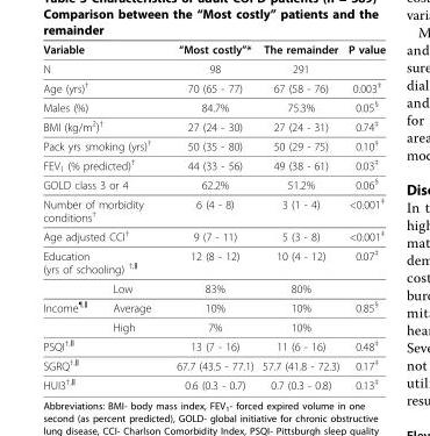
<table><thead><tr><td colspan="2">Variable</td><td>“Most costly”*</td><td>The remainder</td><td>P value</td></tr></thead><tbody><tr><td colspan="2">N</td><td>98</td><td>291</td><td></td></tr><tr><td colspan="2">Age (yrs)<sup>†</sup></td><td>70 (65 - 77)</td><td>67 (58 - 76)</td><td>0.003<sup>‡</sup></td></tr><tr><td colspan="2">Males (%)</td><td>84.7%</td><td>75.3%</td><td>0.05<sup>§</sup></td></tr><tr><td colspan="2">BMI (kg/m<sup>2</sup>)<sup>†</sup></td><td>27 (24 - 30)</td><td>27 (24 - 31)</td><td>0.74<sup>‡</sup></td></tr><tr><td colspan="2">Pack yrs smoking (yrs)<sup>†</sup></td><td>50 (35 - 80)</td><td>50 (29 - 75)</td><td>0.10<sup>‡</sup></td></tr><tr><td colspan="2">FEV<sub>1</sub> (% predicted)<sup>†</sup></td><td>44 (33 - 56)</td><td>49 (38 - 61)</td><td>0.03<sup>‡</sup></td></tr><tr><td colspan="2">GOLD class 3 or 4</td><td>62.2%</td><td>51.2%</td><td>0.06<sup>§</sup></td></tr><tr><td colspan="2">Number of morbidity conditions<sup>†</sup></td><td>6 (4 - 8)</td><td>3 (1 - 4)</td><td>&lt;0.001<sup>‡</sup></td></tr><tr><td colspan="2">Age adjusted CCI<sup>†</sup></td><td>9 (7 - 11)</td><td>5 (3 - 8)</td><td>&lt;0.001<sup>‡</sup></td></tr><tr><td colspan="2">Education (yrs of schooling) <sup>†,‖</sup></td><td>12 (8 - 12)</td><td>10 (4 - 12)</td><td>0.07<sup>‡</sup></td></tr><tr><td></td><td>Low</td><td>83%</td><td>80%</td><td></td></tr><tr><td rowspan="2">Income<sup>¶,‖</sup></td><td>Average</td><td>10%</td><td>10%</td><td>0.85<sup>§</sup></td></tr><tr><td>High</td><td>7%</td><td>10%</td><td></td></tr><tr><td colspan="2">PSQI<sup>†,‖</sup></td><td>13 (7 - 16)</td><td>11 (6 - 16)</td><td>0.48<sup>‡</sup></td></tr><tr><td colspan="2">SGRQ<sup>†,‖</sup></td><td>67.7 (43.5 - 77.1)</td><td>57.7 (41.8 - 72.3)</td><td>0.17<sup>‡</sup></td></tr><tr><td colspan="2">HUI3<sup>†,‖</sup></td><td>0.6 (0.3 - 0.7)</td><td>0.7 (0.3 - 0.8)</td><td>0.13<sup>‡</sup></td></tr></tbody></table>